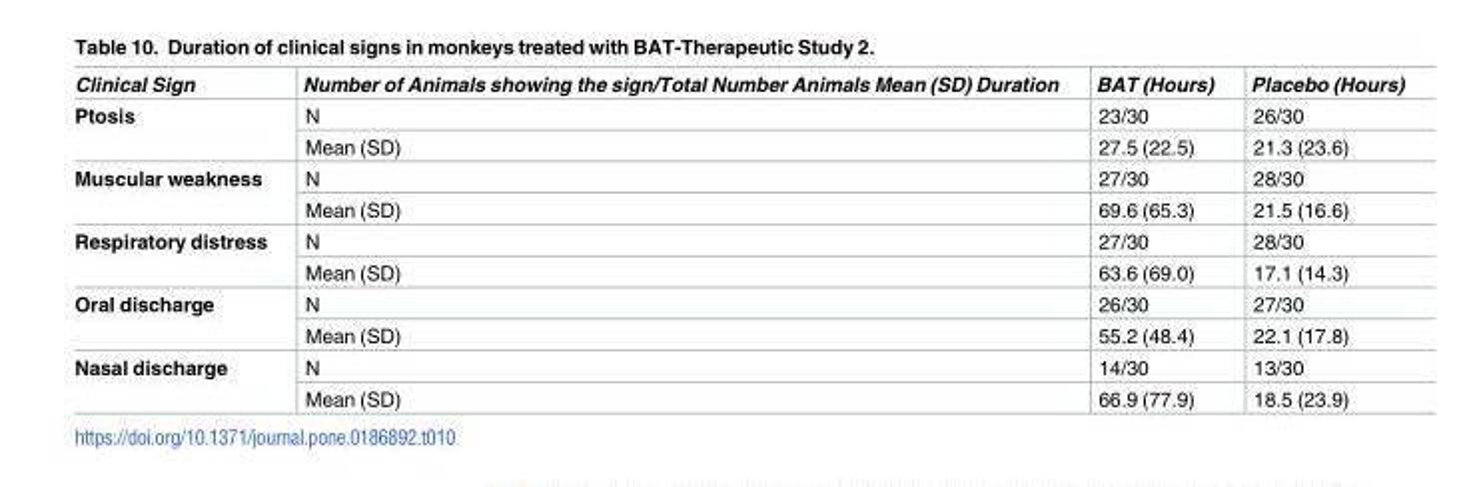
<table><thead><tr><td>Clinical Sign</td><td>Number of Animals showing the sign/Total Number Animals Mean (SD) Duration</td><td>BAT (Hours)</td><td>Placebo (Hours)</td></tr></thead><tbody><tr><td rowspan="2">Ptosis</td><td>N</td><td>23/30</td><td>26/30</td></tr><tr><td>Mean (SD)</td><td>27.5 (22.5)</td><td>21.3 (23.6)</td></tr><tr><td rowspan="2">Muscular weakness</td><td>N</td><td>27/30</td><td>28/30</td></tr><tr><td>Mean (SD)</td><td>69.6 (65.3)</td><td>21.5 (16.6)</td></tr><tr><td rowspan="2">Respiratory distress</td><td>N</td><td>27/30</td><td>28/30</td></tr><tr><td>Mean (SD)</td><td>63.6 (69.0)</td><td>17.1 (14.3)</td></tr><tr><td rowspan="2">Oral discharge</td><td>N</td><td>26/30</td><td>27/30</td></tr><tr><td>Mean (SD)</td><td>55.2 (48.4)</td><td>22.1 (17.8)</td></tr><tr><td rowspan="2">Nasal discharge</td><td>N</td><td>14/30</td><td>13/30</td></tr><tr><td>Mean (SD)</td><td>66.9 (77.9)</td><td>18.5 (23.9)</td></tr></tbody></table>